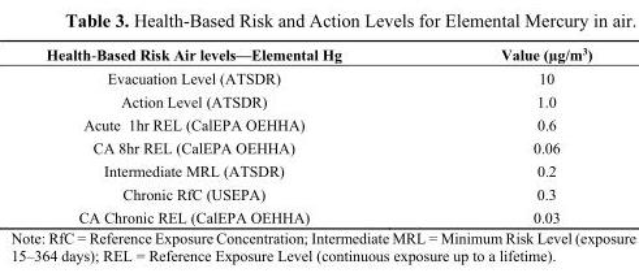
<table><thead><tr><td>Health-Based Risk Air levels—Elemental Hg</td><td>Value (µg/m<sup>3</sup>)</td></tr></thead><tbody><tr><td>Evacuation Level (ATSDR)</td><td>10</td></tr><tr><td>Action Level (ATSDR)</td><td>1.0</td></tr><tr><td>Acute 1hr REL (CalEPA OEHHA)</td><td>0.6</td></tr><tr><td>CA 8hr REL (CalEPA OEHHA)</td><td>0.06</td></tr><tr><td>Intermediate MRL (ATSDR)</td><td>0.2</td></tr><tr><td>Chronic RfC (USEPA)</td><td>0.3</td></tr><tr><td>CA Chronic REL (CalEPA OEHHA)</td><td>0.03</td></tr></tbody></table>